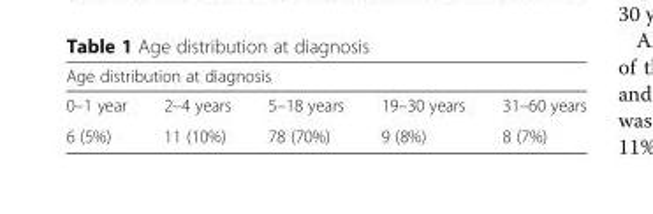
<table><thead><tr><td colspan="5">Age distribution at diagnosis</td></tr><tr><td>0–1 year</td><td>2–4 years</td><td>5–18 years</td><td>19–30 years</td><td>31–60 years</td></tr></thead><tbody><tr><td>6 (5%)</td><td>11 (10%)</td><td>78 (70%)</td><td>9 (8%)</td><td>8 (7%)</td></tr></tbody></table>